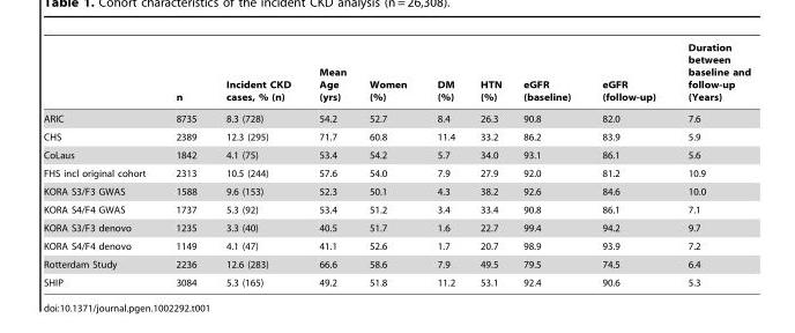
<table><thead><tr><td></td><td>n</td><td>Incident CKD cases, % (n)</td><td>Mean Age (yrs)</td><td>Women (%)</td><td>DM (%)</td><td>HTN (%)</td><td>eGFR (baseline)</td><td>eGFR (follow-up)</td><td>Duration between baseline and follow-up (Years)</td></tr></thead><tbody><tr><td>ARIC</td><td>8735</td><td>8.3 (728)</td><td>54.2</td><td>52.7</td><td>8.4</td><td>26.3</td><td>90.8</td><td>82.0</td><td>7.6</td></tr><tr><td>CHS</td><td>2389</td><td>12.3 (295)</td><td>71.7</td><td>60.8</td><td>11.4</td><td>33.2</td><td>86.2</td><td>83.9</td><td>5.9</td></tr><tr><td>CoLaus</td><td>1842</td><td>4.1 (75)</td><td>53.4</td><td>54.2</td><td>5.7</td><td>34.0</td><td>93.1</td><td>86.1</td><td>5.6</td></tr><tr><td>FHS incl original cohort</td><td>2313</td><td>10.5 (244)</td><td>57.6</td><td>54.0</td><td>7.9</td><td>27.9</td><td>92.0</td><td>81.2</td><td>10.9</td></tr><tr><td>KORA S3/F3 GWAS</td><td>1588</td><td>9.6 (153)</td><td>52.3</td><td>50.1</td><td>4.3</td><td>38.2</td><td>92.6</td><td>84.6</td><td>10.0</td></tr><tr><td>KORA S4/F4 GWAS</td><td>1737</td><td>5.3 (92)</td><td>53.4</td><td>51.2</td><td>3.4</td><td>33.4</td><td>90.8</td><td>86.1</td><td>7.1</td></tr><tr><td>KORA S3/F3 denovo</td><td>1235</td><td>3.3 (40)</td><td>40.5</td><td>51.7</td><td>1.6</td><td>22.7</td><td>99.4</td><td>94.2</td><td>9.7</td></tr><tr><td>KORA S4/F4 denovo</td><td>1149</td><td>4.1 (47)</td><td>41.1</td><td>52.6</td><td>1.7</td><td>20.7</td><td>98.9</td><td>93.9</td><td>7.2</td></tr><tr><td>Rotterdam Study</td><td>2236</td><td>12.6 (283)</td><td>66.6</td><td>58.6</td><td>7.9</td><td>49.5</td><td>79.5</td><td>74.5</td><td>6.4</td></tr><tr><td>SHIP</td><td>3084</td><td>5.3 (165)</td><td>49.2</td><td>51.8</td><td>11.2</td><td>53.1</td><td>92.4</td><td>90.6</td><td>5.3</td></tr></tbody></table>